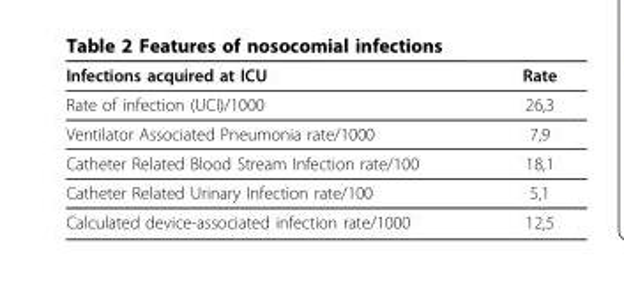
<table><thead><tr><td>Infections acquired at ICU</td><td>Rate</td></tr></thead><tbody><tr><td>Rate of infection (UCI)/1000</td><td>26,3</td></tr><tr><td>Ventilator Associated Pneumonia rate/1000</td><td>7,9</td></tr><tr><td>Catheter Related Blood Stream Infection rate/100</td><td>18,1</td></tr><tr><td>Catheter Related Urinary Infection rate/100</td><td>5,1</td></tr><tr><td>Calculated device-associated infection rate/1000</td><td>12,5</td></tr></tbody></table>